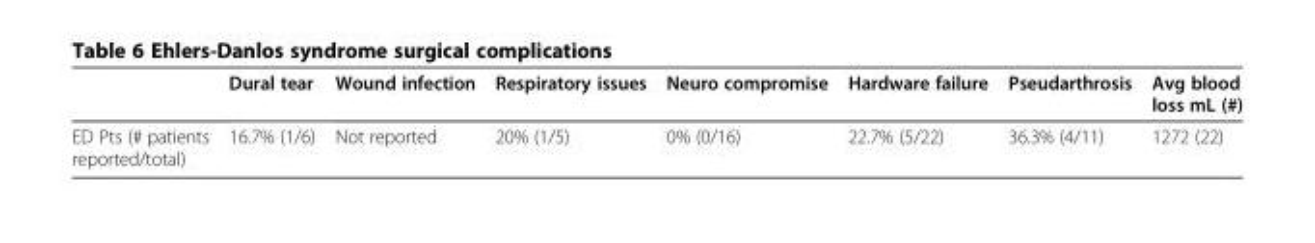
<table><thead><tr><td></td><td>Dural tear</td><td>Wound infection</td><td>Respiratory issues</td><td>Neuro compromise</td><td>Hardware failure</td><td>Pseudarthrosis</td><td>Avg blood loss mL (#)</td></tr></thead><tbody><tr><td>ED Pts (# patients reported/total)</td><td>16.7% (1/6)</td><td>Not reported</td><td>20% (1/5)</td><td>0% (0/16)</td><td>22.7% (5/22)</td><td>36.3% (4/11)</td><td>1272 (22)</td></tr></tbody></table>